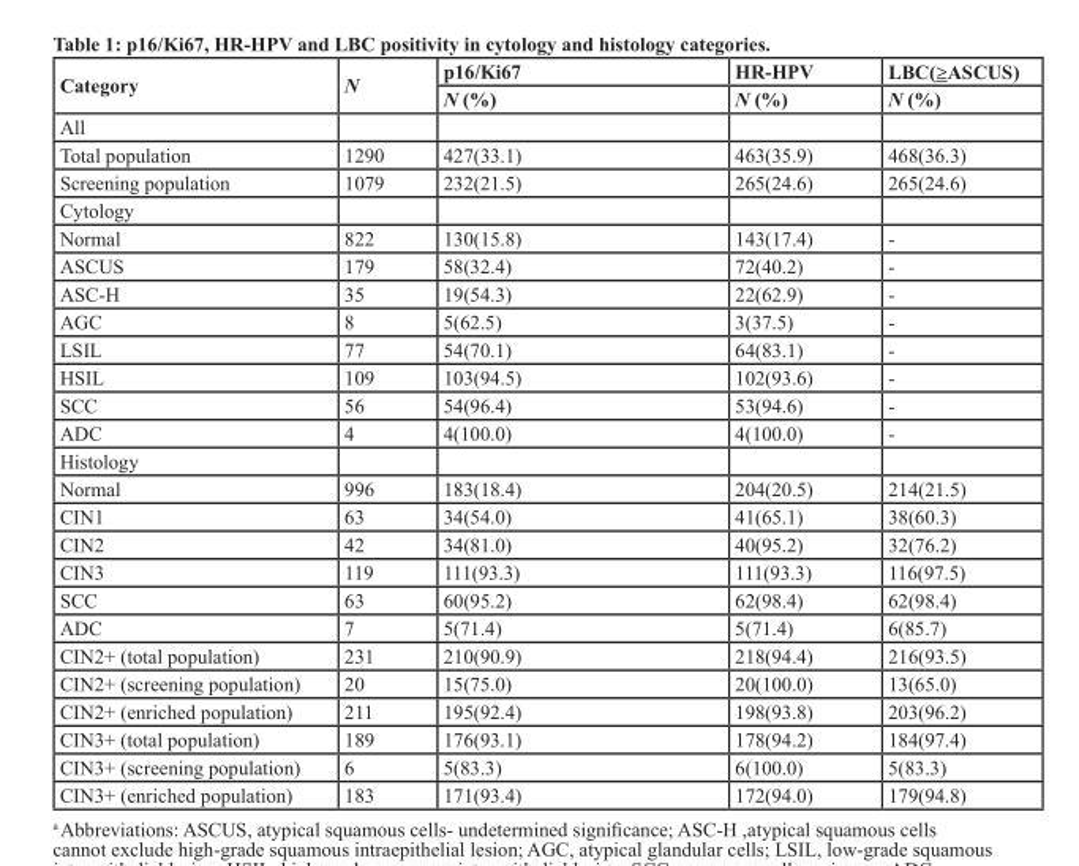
<table><thead><tr><td rowspan="2">Category</td><td rowspan="2">N</td><td rowspan="2">p16/Ki67 N (%)</td><td rowspan="2">HR-HPV N (%)</td><td rowspan="2">LBC(≥ASCUS) N (%)</td></tr><tr></tr></thead><tbody><tr><td colspan="5">All</td></tr><tr><td>Total population</td><td>1290</td><td>427(33.1)</td><td>463(35.9)</td><td>468(36.3)</td></tr><tr><td>Screening population</td><td>1079</td><td>232(21.5)</td><td>265(24.6)</td><td>265(24.6)</td></tr><tr><td colspan="5">Cytology</td></tr><tr><td>Normal</td><td>822</td><td>130(15.8)</td><td>143(17.4)</td><td>-</td></tr><tr><td>ASCUS</td><td>179</td><td>58(32.4)</td><td>72(40.2)</td><td>-</td></tr><tr><td>ASC-H</td><td>35</td><td>19(54.3)</td><td>22(62.9)</td><td>-</td></tr><tr><td>AGC</td><td>8</td><td>5(62.5)</td><td>3(37.5)</td><td>-</td></tr><tr><td>LSIL</td><td>77</td><td>54(70.1)</td><td>64(83.1)</td><td>-</td></tr><tr><td>HSIL</td><td>109</td><td>103(94.5)</td><td>102(93.6)</td><td>-</td></tr><tr><td>SCC</td><td>56</td><td>54(96.4)</td><td>53(94.6)</td><td>-</td></tr><tr><td>ADC</td><td>4</td><td>4(100.0)</td><td>4(100.0)</td><td>-</td></tr><tr><td colspan="5">Histology</td></tr><tr><td>Normal</td><td>996</td><td>183(18.4)</td><td>204(20.5)</td><td>214(21.5)</td></tr><tr><td>CIN1</td><td>63</td><td>34(54.0)</td><td>41(65.1)</td><td>38(60.3)</td></tr><tr><td>CIN2</td><td>42</td><td>34(81.0)</td><td>40(95.2)</td><td>32(76.2)</td></tr><tr><td>CIN3</td><td>119</td><td>111(93.3)</td><td>111(93.3)</td><td>116(97.5)</td></tr><tr><td>SCC</td><td>63</td><td>60(95.2)</td><td>62(98.4)</td><td>62(98.4)</td></tr><tr><td>ADC</td><td>7</td><td>5(71.4)</td><td>5(71.4)</td><td>6(85.7)</td></tr><tr><td>CIN2+ (total population)</td><td>231</td><td>210(90.9)</td><td>218(94.4)</td><td>216(93.5)</td></tr><tr><td>CIN2+ (screening population)</td><td>20</td><td>15(75.0)</td><td>20(100.0)</td><td>13(65.0)</td></tr><tr><td>CIN2+ (enriched population)</td><td>211</td><td>195(92.4)</td><td>198(93.8)</td><td>203(96.2)</td></tr><tr><td>CIN3+ (total population)</td><td>189</td><td>176(93.1)</td><td>178(94.2)</td><td>184(97.4)</td></tr><tr><td>CIN3+ (screening population)</td><td>6</td><td>5(83.3)</td><td>6(100.0)</td><td>5(83.3)</td></tr><tr><td>CIN3+ (enriched population)</td><td>183</td><td>171(93.4)</td><td>172(94.0)</td><td>179(94.8)</td></tr></tbody></table>